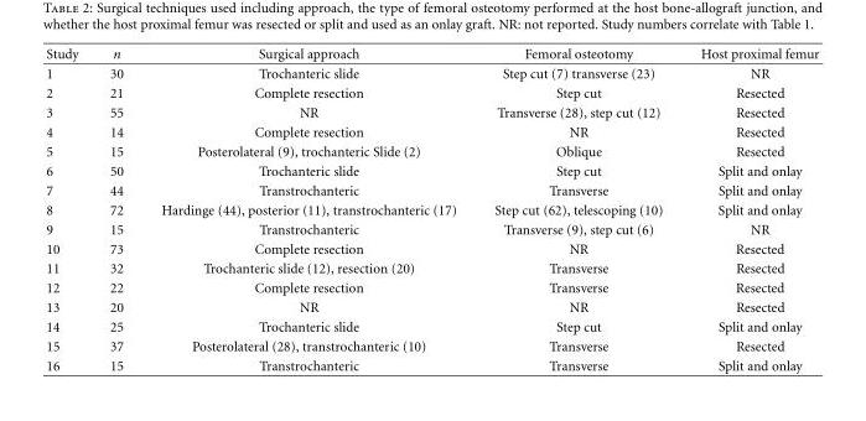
<table><thead><tr><td>Study</td><td>n</td><td>Surgical approach</td><td>Femoral osteotomy</td><td>Host proximal femur</td></tr></thead><tbody><tr><td>1</td><td>30</td><td>Trochanteric slide</td><td>Step cut (7) transverse (23)</td><td>NR</td></tr><tr><td>2</td><td>21</td><td>Complete resection</td><td>Step cut</td><td>Resected</td></tr><tr><td>3</td><td>55</td><td>NR</td><td>Transverse (28), step cut (12)</td><td>Resected</td></tr><tr><td>4</td><td>14</td><td>Complete resection</td><td>NR</td><td>Resected</td></tr><tr><td>5</td><td>15</td><td>Posterolateral (9), trochanteric Slide (2)</td><td>Oblique</td><td>Resected</td></tr><tr><td>6</td><td>50</td><td>Trochanteric slide</td><td>Step cut</td><td>Split and onlay</td></tr><tr><td>7</td><td>44</td><td>Transtrochanteric</td><td>Transverse</td><td>Split and onlay</td></tr><tr><td>8</td><td>72</td><td>Hardinge (44), posterior (11), transtrochanteric (17)</td><td>Step cut (62), telescoping (10)</td><td>Split and onlay</td></tr><tr><td>9</td><td>15</td><td>Transtrochanteric</td><td>Transverse (9), step cut (6)</td><td>NR</td></tr><tr><td>10</td><td>73</td><td>Complete resection</td><td>NR</td><td>Resected</td></tr><tr><td>11</td><td>32</td><td>Trochanteric slide (12), resection (20)</td><td>Transverse</td><td>Resected</td></tr><tr><td>12</td><td>22</td><td>Complete resection</td><td>Transverse</td><td>Resected</td></tr><tr><td>13</td><td>20</td><td>NR</td><td>NR</td><td>Resected</td></tr><tr><td>14</td><td>25</td><td>Trochanteric slide</td><td>Step cut</td><td>Split and onlay</td></tr><tr><td>15</td><td>37</td><td>Posterolateral (28), transtrochanteric (10)</td><td>Transverse</td><td>Resected</td></tr><tr><td>16</td><td>15</td><td>Transtrochanteric</td><td>Transverse</td><td>Split and onlay</td></tr></tbody></table>